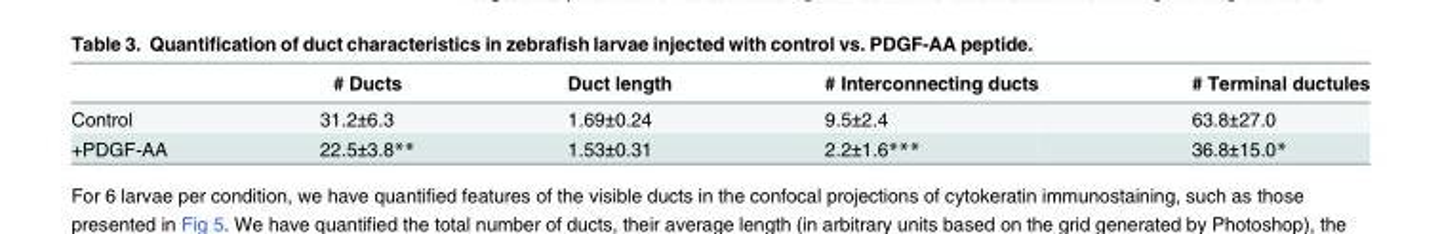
<table><thead><tr><td></td><td># Ducts</td><td>Duct length</td><td># Interconnecting ducts</td><td># Terminal ductules</td></tr></thead><tbody><tr><td>Control</td><td>31.2±6.3</td><td>1.69±0.24</td><td>9.5±2.4</td><td>63.8±27.0</td></tr><tr><td>+PDGF-AA</td><td>22.5±3.8**</td><td>1.53±0.31</td><td>2.2±1.6***</td><td>36.8±15.0*</td></tr></tbody></table>